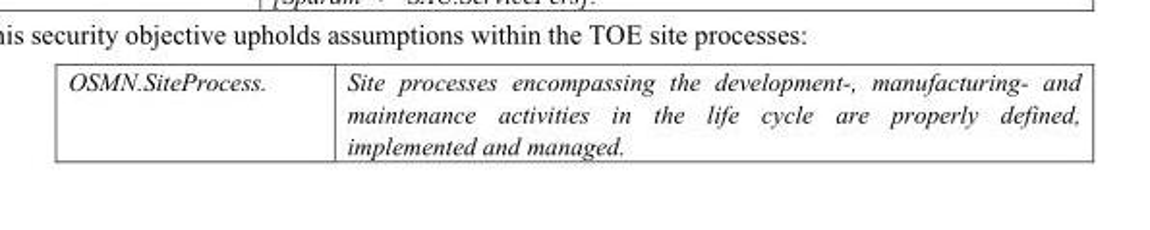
<table><tbody><tr><td>OSMN.SiteProcess.</td><td>Site processes encompassing the development-, manufacturing- and maintenance activities in the life cycle are properly defined, implemented and managed.</td></tr></tbody></table>